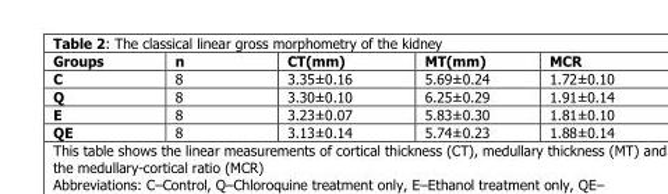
<table><thead><tr><td>Groups</td><td>n</td><td>CT(mm)</td><td>MT(mm)</td><td>MCR</td></tr></thead><tbody><tr><td>C</td><td>8</td><td>3.35±0.16</td><td>5.69±0.24</td><td>1.72±0.10</td></tr><tr><td>Q</td><td>8</td><td>3.30±0.10</td><td>6.25±0.29</td><td>1.91±0.14</td></tr><tr><td>E</td><td>8</td><td>3.23±0.07</td><td>5.83±0.30</td><td>1.81±0.10</td></tr><tr><td>QE</td><td>8</td><td>3.13±0.14</td><td>5.74±0.23</td><td>1.88±0.14</td></tr></tbody></table>